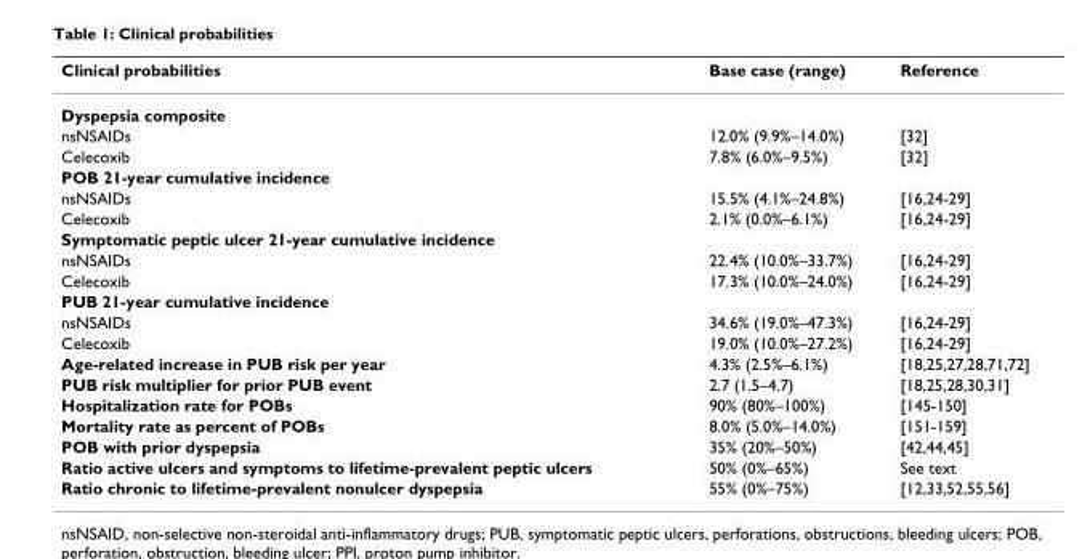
<table><thead><tr><td>Clinical probabilities</td><td>Base case (range)</td><td>Reference</td></tr></thead><tbody><tr><td colspan="3">Dyspepsia composite</td></tr><tr><td>nsNSAIDs</td><td>12.0% (9.9%–14.0%)</td><td>[32]</td></tr><tr><td>Celecoxib</td><td>7.8% (6.0%–9.5%)</td><td>[32]</td></tr><tr><td colspan="3">POB 21-year cumulative incidence</td></tr><tr><td>nsNSAIDs</td><td>15.5% (4.1%–24.8%)</td><td>[16,24-29]</td></tr><tr><td>Celecoxib</td><td>2.1% (0.0%–6.1%)</td><td>[16,24-29]</td></tr><tr><td colspan="3">Symptomatic peptic ulcer 21-year cumulative incidence</td></tr><tr><td>nsNSAIDs</td><td>22.4% (10.0%–33.7%)</td><td>[16,24-29]</td></tr><tr><td>Celecoxib</td><td>17.3% (10.0%–24.0%)</td><td>[16,24-29]</td></tr><tr><td colspan="3">PUB 21-year cumulative incidence</td></tr><tr><td>nsNSAIDs</td><td>34.6% (19.0%–47.3%)</td><td>[16,24-29]</td></tr><tr><td>Celecoxib</td><td>19.0% (10.0%–27.2%)</td><td>[16,24-29]</td></tr><tr><td>Age-related increase in PUB risk per year</td><td>4.3% (2.5%–6.1%)</td><td>[18,25,27,28,71,72]</td></tr><tr><td>PUB risk multiplier for prior PUB event</td><td>2.7 (1.5–4.7)</td><td>[18,25,28,30,31]</td></tr><tr><td>Hospitalization rate for POBs</td><td>90% (80%–100%)</td><td>[145-150]</td></tr><tr><td>Mortality rate as percent of POBs</td><td>8.0% (5.0%–14.0%)</td><td>[151-159]</td></tr><tr><td>POB with prior dyspepsia</td><td>35% (20%–50%)</td><td>[42,44,45]</td></tr><tr><td>Ratio active ulcers and symptoms to lifetime-prevalent peptic ulcers</td><td>50% (0%–65%)</td><td>See text</td></tr><tr><td>Ratio chronic to lifetime-prevalent nonulcer dyspepsia</td><td>55% (0%–75%)</td><td>[12,33,52,55,56]</td></tr></tbody></table>